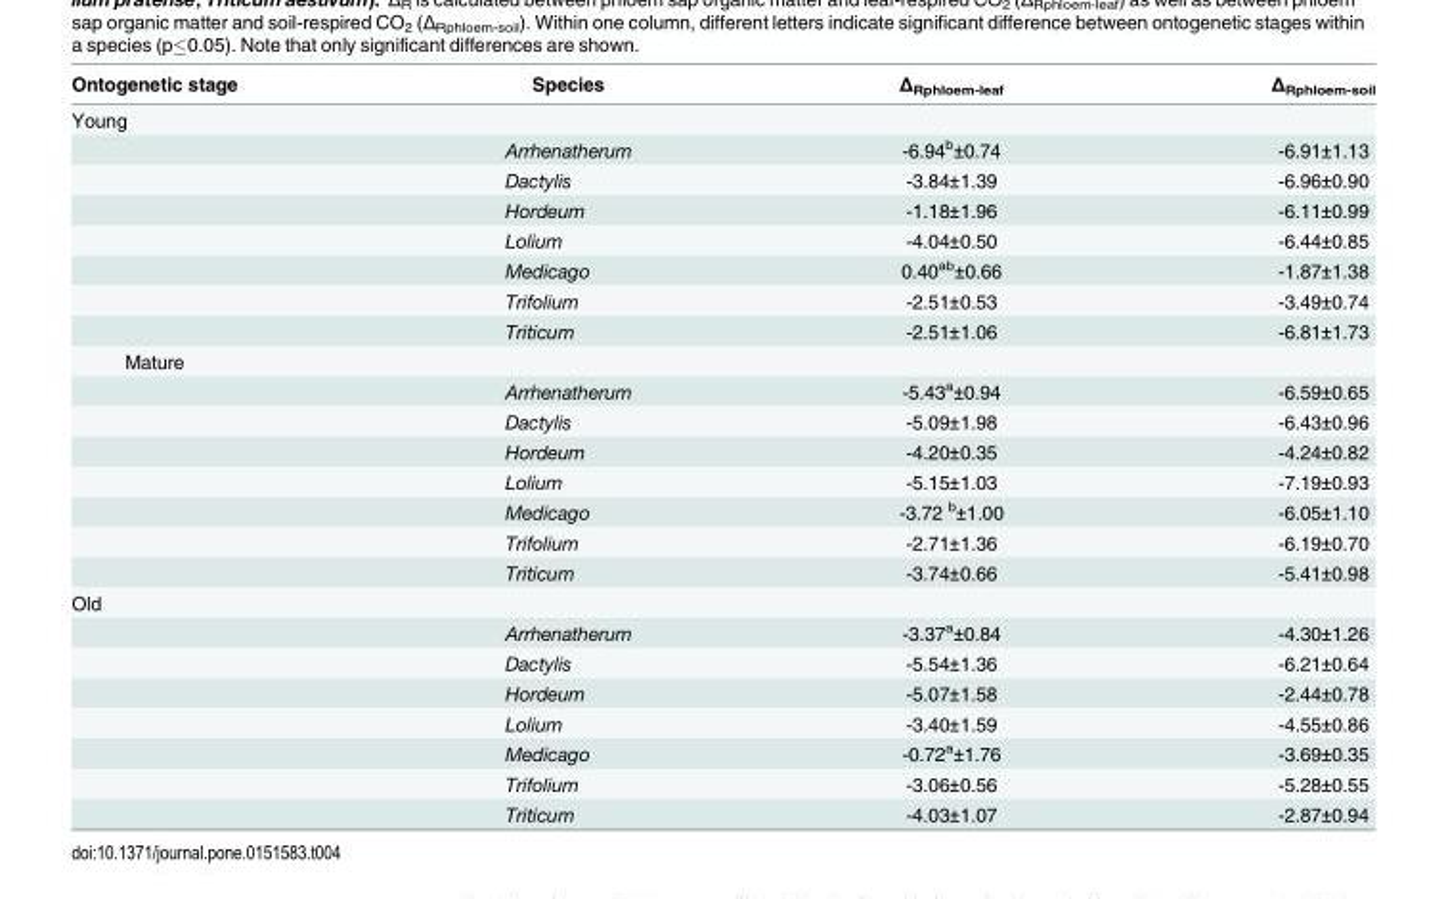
<table><thead><tr><td>Ontogenetic stage</td><td>Species</td><td>Δ<sub>Rphloem-leaf</sub></td><td>Δ<sub>Rphloem-soil</sub></td></tr></thead><tbody><tr><td colspan="4">Young</td></tr><tr><td></td><td>Arrhenatherum</td><td>-6.94<sup>b</sup>±0.74</td><td>-6.91±1.13</td></tr><tr><td></td><td>Dactylis</td><td>-3.84±1.39</td><td>-6.96±0.90</td></tr><tr><td></td><td>Hordeum</td><td>-1.18±1.96</td><td>-6.11±0.99</td></tr><tr><td></td><td>Lolium</td><td>-4.04±0.50</td><td>-6.44±0.85</td></tr><tr><td></td><td>Medicago</td><td>0.40<sup>ab</sup>±0.66</td><td>-1.87±1.38</td></tr><tr><td></td><td>Trifolium</td><td>-2.51±0.53</td><td>-3.49±0.74</td></tr><tr><td></td><td>Triticum</td><td>-2.51±1.06</td><td>-6.81±1.73</td></tr><tr><td colspan="4">Mature</td></tr><tr><td></td><td>Arrhenatherum</td><td>-5.43<sup>a</sup>±0.94</td><td>-6.59±0.65</td></tr><tr><td></td><td>Dactylis</td><td>-5.09±1.98</td><td>-6.43±0.96</td></tr><tr><td></td><td>Hordeum</td><td>-4.20±0.35</td><td>-4.24±0.82</td></tr><tr><td></td><td>Lolium</td><td>-5.15±1.03</td><td>-7.19±0.93</td></tr><tr><td></td><td>Medicago</td><td>-3.72 <sup>b</sup>±1.00</td><td>-6.05±1.10</td></tr><tr><td></td><td>Trifolium</td><td>-2.71±1.36</td><td>-6.19±0.70</td></tr><tr><td></td><td>Triticum</td><td>-3.74±0.66</td><td>-5.41±0.98</td></tr><tr><td colspan="4">Old</td></tr><tr><td></td><td>Arrhenatherum</td><td>-3.37<sup>a</sup>±0.84</td><td>-4.30±1.26</td></tr><tr><td></td><td>Dactylis</td><td>-5.54±1.36</td><td>-6.21±0.64</td></tr><tr><td></td><td>Hordeum</td><td>-5.07±1.58</td><td>-2.44±0.78</td></tr><tr><td></td><td>Lolium</td><td>-3.40±1.59</td><td>-4.55±0.86</td></tr><tr><td></td><td>Medicago</td><td>-0.72<sup>a</sup>±1.76</td><td>-3.69±0.35</td></tr><tr><td></td><td>Trifolium</td><td>-3.06±0.56</td><td>-5.28±0.55</td></tr><tr><td></td><td>Triticum</td><td>-4.03±1.07</td><td>-2.87±0.94</td></tr></tbody></table>